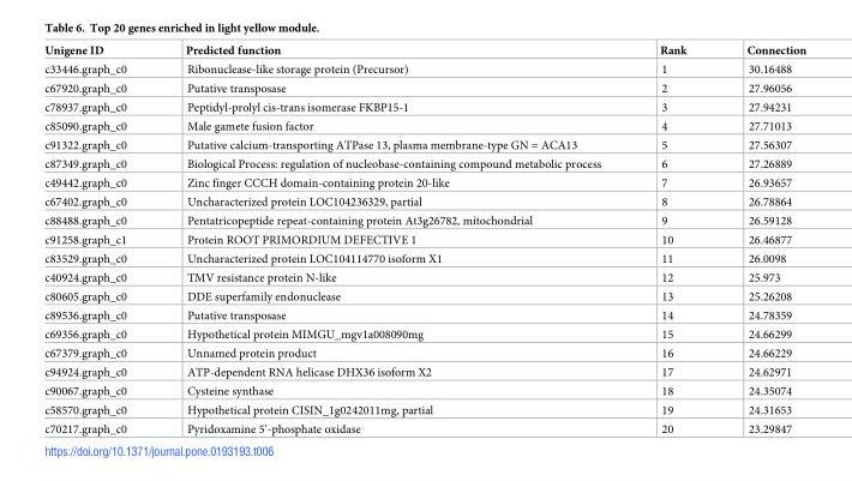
<table><thead><tr><td>Unigene ID</td><td>Predicted function</td><td>Rank</td><td>Connection</td></tr></thead><tbody><tr><td>c33446.graph_c0</td><td>Ribonuclease-like storage protein (Precursor)</td><td>1</td><td>30.16488</td></tr><tr><td>c67920.graph_c0</td><td>Putative transposase</td><td>2</td><td>27.96056</td></tr><tr><td>c78937.graph_c0</td><td>Peptidyl-prolyl cis-trans isomerase FKBP15-1</td><td>3</td><td>27.94231</td></tr><tr><td>c85090.graph_c0</td><td>Male gamete fusion factor</td><td>4</td><td>27.71013</td></tr><tr><td>c91322.graph_c0</td><td>Putative calcium-transporting ATPase 13, plasma membrane-type GN = ACA13</td><td>5</td><td>27.56307</td></tr><tr><td>c87349.graph_c0</td><td>Biological Process: regulation of nucleobase-containing compound metabolic process</td><td>6</td><td>27.26889</td></tr><tr><td>c49442.graph_c0</td><td>Zinc finger CCCH domain-containing protein 20-like</td><td>7</td><td>26.93657</td></tr><tr><td>c67402.graph_c0</td><td>Uncharacterized protein LOC104236329, partial</td><td>8</td><td>26.78864</td></tr><tr><td>c88488.graph_c0</td><td>Pentatricopeptide repeat-containing protein At3g26782, mitochondrial</td><td>9</td><td>26.59128</td></tr><tr><td>c91258.graph_c1</td><td>Protein ROOT PRIMORDIUM DEFECTIVE 1</td><td>10</td><td>26.46877</td></tr><tr><td>c83529.graph_c0</td><td>Uncharacterized protein LOC104114770 isoform X1</td><td>11</td><td>26.0098</td></tr><tr><td>c40924.graph_c0</td><td>TMV resistance protein N-like</td><td>12</td><td>25.973</td></tr><tr><td>c80605.graph_c0</td><td>DDE superfamily endonuclease</td><td>13</td><td>25.26208</td></tr><tr><td>c89536.graph_c0</td><td>Putative transposase</td><td>14</td><td>24.78359</td></tr><tr><td>c69356.graph_c0</td><td>Hypothetical protein MIMGU_mgv1a008090mg</td><td>15</td><td>24.66299</td></tr><tr><td>c67379.graph_c0</td><td>Unnamed protein product</td><td>16</td><td>24.66229</td></tr><tr><td>c94924.graph_c0</td><td>ATP-dependent RNA helicase DHX36 isoform X2</td><td>17</td><td>24.62971</td></tr><tr><td>c90067.graph_c0</td><td>Cysteine synthase</td><td>18</td><td>24.35074</td></tr><tr><td>c58570.graph_c0</td><td>Hypothetical protein CISIN_1g0242011mg, partial</td><td>19</td><td>24.31653</td></tr><tr><td>c70217.graph_c0</td><td>Pyridoxamine 5’-phosphate oxidase</td><td>20</td><td>23.29847</td></tr></tbody></table>